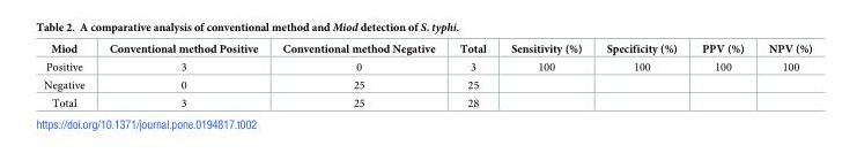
<table><thead><tr><td>Miod</td><td>Conventional method Positive</td><td>Conventional method Negative</td><td>Total</td><td>Sensitivity (%)</td><td>Specificity (%)</td><td>PPV (%)</td><td>NPV (%)</td></tr></thead><tbody><tr><td>Positive</td><td>3</td><td>0</td><td>3</td><td>100</td><td>100</td><td>100</td><td>100</td></tr><tr><td>Negative</td><td>0</td><td>25</td><td>25</td><td></td><td></td><td></td><td></td></tr><tr><td>Total</td><td>3</td><td>25</td><td>28</td><td></td><td></td><td></td><td></td></tr></tbody></table>